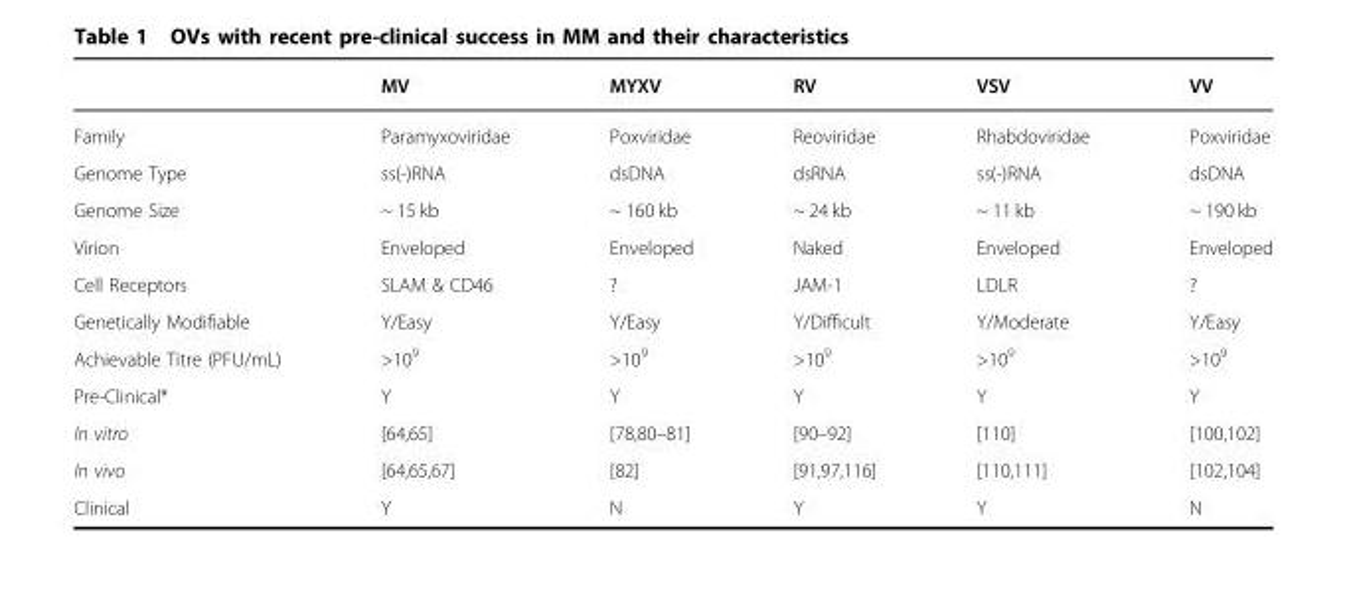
<table><thead><tr><td></td><td>MV</td><td>MYXV</td><td>RV</td><td>VSV</td><td>VV</td></tr></thead><tbody><tr><td>Family</td><td>Paramyxoviridae</td><td>Poxviridae</td><td>Reoviridae</td><td>Rhabdoviridae</td><td>Poxviridae</td></tr><tr><td>Genome Type</td><td>ss(-)RNA</td><td>dsDNA</td><td>dsRNA</td><td>ss(-)RNA</td><td>dsDNA</td></tr><tr><td>Genome Size</td><td>~ 15 kb</td><td>~ 160 kb</td><td>~ 24 kb</td><td>~ 11 kb</td><td>~ 190 kb</td></tr><tr><td>Virion</td><td>Enveloped</td><td>Enveloped</td><td>Naked</td><td>Enveloped</td><td>Enveloped</td></tr><tr><td>Cell Receptors</td><td>SLAM &amp; CD46</td><td>?</td><td>JAM-1</td><td>LDLR</td><td>?</td></tr><tr><td>Genetically Modifiable</td><td>Y/Easy</td><td>Y/Easy</td><td>Y/Difficult</td><td>Y/Moderate</td><td>Y/Easy</td></tr><tr><td>Achievable Titre (PFU/mL)</td><td>&gt;10<sup>9</sup></td><td>&gt;10<sup>9</sup></td><td>&gt;10<sup>9</sup></td><td>&gt;10<sup>9</sup></td><td>&gt;10<sup>9</sup></td></tr><tr><td>Pre-Clinical*</td><td>Y</td><td>Y</td><td>Y</td><td>Y</td><td>Y</td></tr><tr><td>In vitro</td><td>[64,65]</td><td>[78,80–81]</td><td>[90–92]</td><td>[110]</td><td>[100,102]</td></tr><tr><td>In vivo</td><td>[64,65,67]</td><td>[82]</td><td>[91,97,116]</td><td>[110,111]</td><td>[102,104]</td></tr><tr><td>Clinical</td><td>Y</td><td>N</td><td>Y</td><td>Y</td><td>N</td></tr></tbody></table>